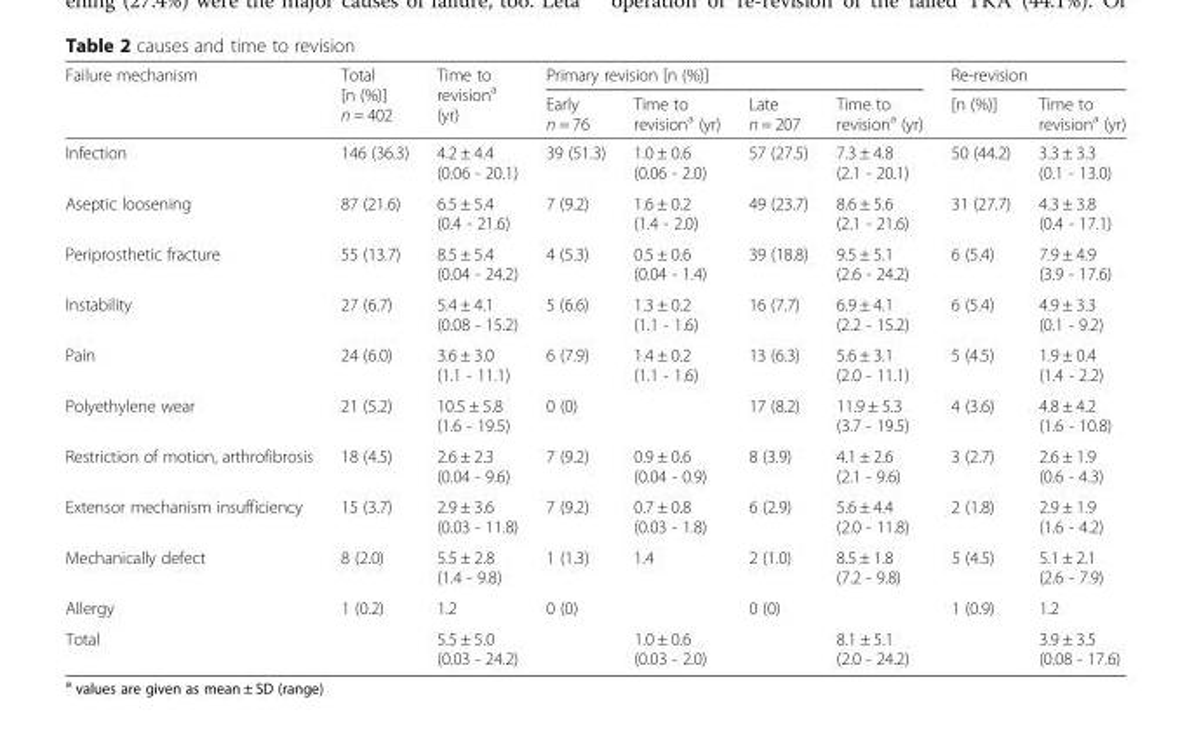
<table><thead><tr><td rowspan="2">Failure mechanism</td><td rowspan="2">Total [n (%)] n = 402</td><td rowspan="2">Time to revision<sup>a</sup> (yr)</td><td colspan="4">Primary revision [n (%)]</td><td colspan="2">Re-revision</td></tr><tr><td>Early n = 76</td><td>Time to revision<sup>a</sup> (yr)</td><td>Late n = 207</td><td>Time to revision<sup>a</sup> (yr)</td><td>[n (%)]</td><td>Time to revision<sup>a</sup> (yr)</td></tr></thead><tbody><tr><td>Infection</td><td>146 (36.3)</td><td>4.2 ± 4.4 (0.06 - 20.1)</td><td>39 (51.3)</td><td>1.0 ± 0.6 (0.06 - 2.0)</td><td>57 (27.5)</td><td>7.3 ± 4.8 (2.1 - 20.1)</td><td>50 (44.2)</td><td>3.3 ± 3.3 (0.1 - 13.0)</td></tr><tr><td>Aseptic loosening</td><td>87 (21.6)</td><td>6.5 ± 5.4 (0.4 - 21.6)</td><td>7 (9.2)</td><td>1.6 ± 0.2 (1.4 - 2.0)</td><td>49 (23.7)</td><td>8.6 ± 5.6 (2.1 - 21.6)</td><td>31 (27.7)</td><td>4.3 ± 3.8 (0.4 - 17.1)</td></tr><tr><td>Periprosthetic fracture</td><td>55 (13.7)</td><td>8.5 ± 5.4 (0.04 - 24.2)</td><td>4 (5.3)</td><td>0.5 ± 0.6 (0.04 - 1.4)</td><td>39 (18.8)</td><td>9.5 ± 5.1 (2.6 - 24.2)</td><td>6 (5.4)</td><td>7.9 ± 4.9 (3.9 - 17.6)</td></tr><tr><td>Instability</td><td>27 (6.7)</td><td>5.4 ± 4.1 (0.08 - 15.2)</td><td>5 (6.6)</td><td>1.3 ± 0.2 (1.1 - 1.6)</td><td>16 (7.7)</td><td>6.9 ± 4.1 (2.2 - 15.2)</td><td>6 (5.4)</td><td>4.9 ± 3.3 (0.1 - 9.2)</td></tr><tr><td>Pain</td><td>24 (6.0)</td><td>3.6 ± 3.0 (1.1 - 11.1)</td><td>6 (7.9)</td><td>1.4 ± 0.2 (1.1 - 1.6)</td><td>13 (6.3)</td><td>5.6 ± 3.1 (2.0 - 11.1)</td><td>5 (4.5)</td><td>1.9 ± 0.4 (1.4 - 2.2)</td></tr><tr><td>Polyethylene wear</td><td>21 (5.2)</td><td>10.5 ± 5.8 (1.6 - 19.5)</td><td>0 (0)</td><td></td><td>17 (8.2)</td><td>11.9 ± 5.3 (3.7 - 19.5)</td><td>4 (3.6)</td><td>4.8 ± 4.2 (1.6 - 10.8)</td></tr><tr><td>Restriction of motion, arthrofibrosis</td><td>18 (4.5)</td><td>2.6 ± 2.3 (0.04 - 9.6)</td><td>7 (9.2)</td><td>0.9 ± 0.6 (0.04 - 0.9)</td><td>8 (3.9)</td><td>4.1 ± 2.6 (2.1 - 9.6)</td><td>3 (2.7)</td><td>2.6 ± 1.9 (0.6 - 4.3)</td></tr><tr><td>Extensor mechanism insufficiency</td><td>15 (3.7)</td><td>2.9 ± 3.6 (0.03 - 11.8)</td><td>7 (9.2)</td><td>0.7 ± 0.8 (0.03 - 1.8)</td><td>6 (2.9)</td><td>5.6 ± 4.4 (2.0 - 11.8)</td><td>2 (1.8)</td><td>2.9 ± 1.9 (1.6 - 4.2)</td></tr><tr><td>Mechanically defect</td><td>8 (2.0)</td><td>5.5 ± 2.8 (1.4 - 9.8)</td><td>1 (1.3)</td><td>1.4</td><td>2 (1.0)</td><td>8.5 ± 1.8 (7.2 - 9.8)</td><td>5 (4.5)</td><td>5.1 ± 2.1 (2.6 - 7.9)</td></tr><tr><td>Allergy</td><td>1 (0.2)</td><td>1.2</td><td>0 (0)</td><td></td><td>0 (0)</td><td></td><td>1 (0.9)</td><td>1.2</td></tr><tr><td>Total</td><td></td><td>5.5 ± 5.0 (0.03 - 24.2)</td><td></td><td>1.0 ± 0.6 (0.03 - 2.0)</td><td></td><td>8.1 ± 5.1 (2.0 - 24.2)</td><td></td><td>3.9 ± 3.5 (0.08 - 17.6)</td></tr></tbody></table>